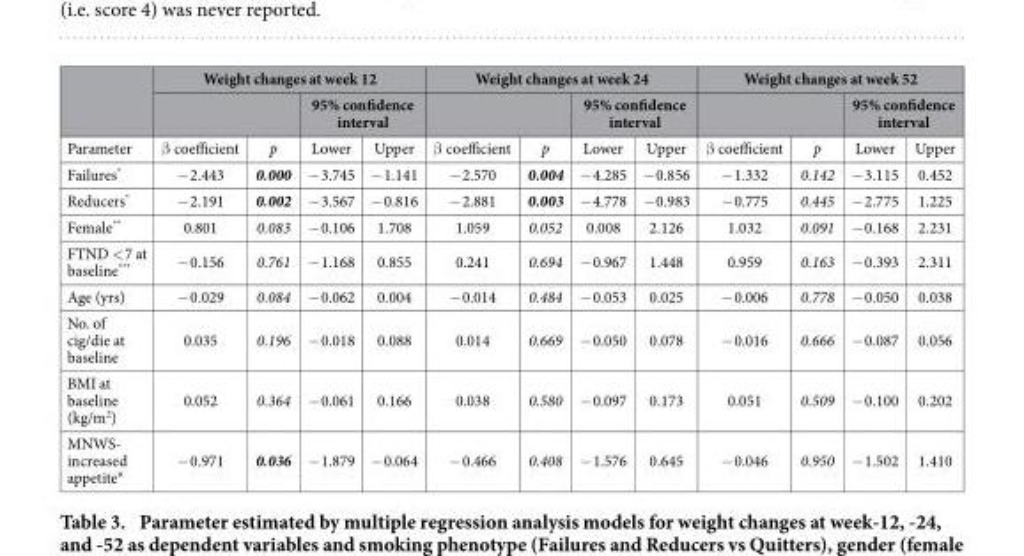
<table><thead><tr><td rowspan="3">Parameter</td><td colspan="4">Weight changes at week 12</td><td colspan="4">Weight changes at week 24</td><td colspan="4">Weight changes at week 52</td></tr><tr><td rowspan="2">β coefficient</td><td rowspan="2">p</td><td colspan="2">95% confidence interval</td><td rowspan="2">β coefficient</td><td rowspan="2">p</td><td colspan="2">95% confidence interval</td><td rowspan="2">β coefficient</td><td rowspan="2">p</td><td colspan="2">95% confidence interval</td></tr><tr><td>Lower</td><td>Upper</td><td>Lower</td><td>Upper</td><td>Lower</td><td>Upper</td></tr></thead><tbody><tr><td>Failures*</td><td>− 2.443</td><td>0.000</td><td>− 3.745</td><td>− 1.141</td><td>− 2.570</td><td>0.004</td><td>− 4.285</td><td>− 0.856</td><td>− 1.332</td><td>0.142</td><td>− 3.115</td><td>0.452</td></tr><tr><td>Reducers*</td><td>− 2.191</td><td>0.002</td><td>− 3.567</td><td>− 0.816</td><td>− 2.881</td><td>0.003</td><td>− 4.778</td><td>− 0.983</td><td>− 0.775</td><td>0.445</td><td>− 2.775</td><td>1.225</td></tr><tr><td>Female**</td><td>0.801</td><td>0.083</td><td>− 0.106</td><td>1.708</td><td>1.059</td><td>0.052</td><td>0.008</td><td>2.126</td><td>1.032</td><td>0.091</td><td>− 0.168</td><td>2.231</td></tr><tr><td>FTND &lt; 7 at baseline***</td><td>− 0.156</td><td>0.761</td><td>− 1.168</td><td>0.855</td><td>0.241</td><td>0.694</td><td>− 0.967</td><td>1.448</td><td>0.959</td><td>0.163</td><td>− 0.393</td><td>2.311</td></tr><tr><td>Age (yrs)</td><td>− 0.029</td><td>0.084</td><td>− 0.062</td><td>0.004</td><td>− 0.014</td><td>0.484</td><td>− 0.053</td><td>0.025</td><td>− 0.006</td><td>0.778</td><td>− 0.050</td><td>0.038</td></tr><tr><td>No. of cig/die at baseline</td><td>0.035</td><td>0.196</td><td>− 0.018</td><td>0.088</td><td>0.014</td><td>0.669</td><td>− 0.050</td><td>0.078</td><td>− 0.016</td><td>0.666</td><td>− 0.087</td><td>0.056</td></tr><tr><td>BMI at baseline (kg/m<sup>2</sup>)</td><td>0.052</td><td>0.364</td><td>− 0.061</td><td>0.166</td><td>0.038</td><td>0.580</td><td>− 0.097</td><td>0.173</td><td>0.051</td><td>0.509</td><td>− 0.100</td><td>0.202</td></tr><tr><td>MNWS- increased appetite#</td><td>− 0.971</td><td>0.036</td><td>− 1.879</td><td>− 0.064</td><td>− 0.466</td><td>0.408</td><td>− 1.576</td><td>0.645</td><td>− 0.046</td><td>0.950</td><td>− 1.502</td><td>1.410</td></tr></tbody></table>